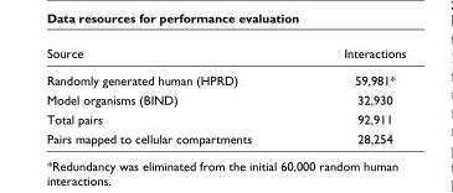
<table><thead><tr><td>Source</td><td>Interactions</td></tr></thead><tbody><tr><td>Randomly generated human (HPRD)</td><td>59,981*</td></tr><tr><td>Model organisms (BIND)</td><td>32,930</td></tr><tr><td>Total pairs</td><td>92,911</td></tr><tr><td>Pairs mapped to cellular compartments</td><td>28,254</td></tr></tbody></table>